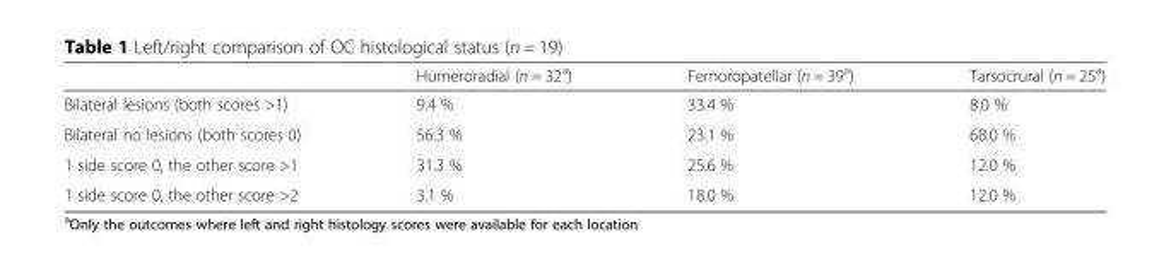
<table><thead><tr><td></td><td>Humeroradial (n = 32<sup>a</sup>)</td><td>Femoropatellar (n = 39<sup>a</sup>)</td><td>Tarsocrural (n = 25<sup>a</sup>)</td></tr></thead><tbody><tr><td>Bilateral lesions (both scores &gt;1)</td><td>9.4 %</td><td>33.4 %</td><td>8.0 %</td></tr><tr><td>Bilateral no lesions (both scores 0)</td><td>56.3 %</td><td>23.1 %</td><td>68.0 %</td></tr><tr><td>1 side score 0, the other score &gt;1</td><td>31.3 %</td><td>25.6 %</td><td>12.0 %</td></tr><tr><td>1 side score 0, the other score &gt;2</td><td>3.1 %</td><td>18.0 %</td><td>12.0 %</td></tr></tbody></table>